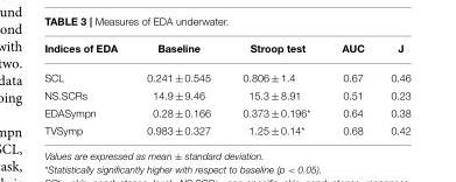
<table><thead><tr><td>Indices of EDA</td><td>Baseline</td><td>Stroop test</td><td>AUC</td><td>J</td></tr></thead><tbody><tr><td>SCL</td><td>0.241 ± 0.545</td><td>0.806 ± 1.4</td><td>0.67</td><td>0.46</td></tr><tr><td>NS.SCRs</td><td>14.9 ± 9.46</td><td>15.3 ± 8.91</td><td>0.51</td><td>0.23</td></tr><tr><td>EDASympn</td><td>0.28 ± 0.166</td><td>0.373 ± 0.196*</td><td>0.64</td><td>0.38</td></tr><tr><td>TVSymp</td><td>0.983 ± 0.327</td><td>1.25 ± 0.14*</td><td>0.68</td><td>0.42</td></tr></tbody></table>